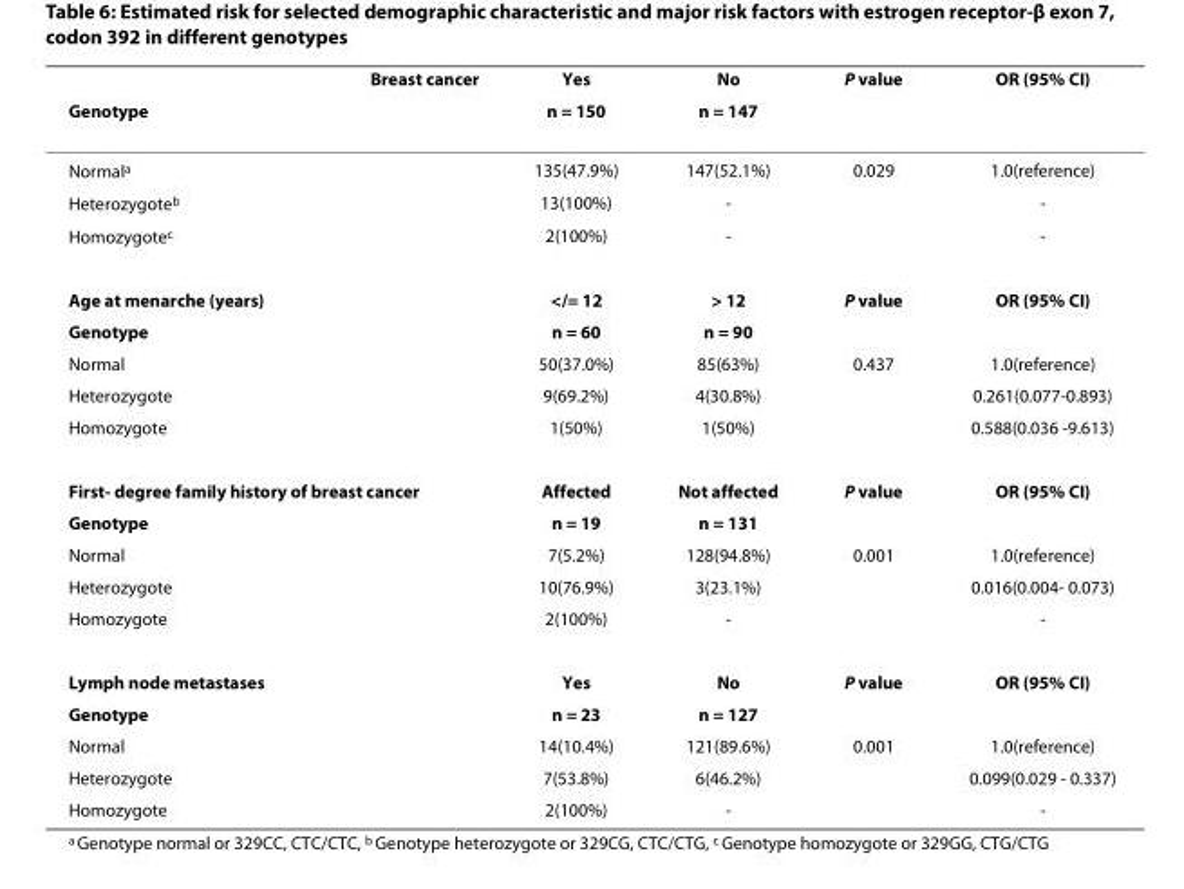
<table><thead><tr><td rowspan="2">Breast cancer Genotype</td><td rowspan="2">Yes n = 150</td><td rowspan="2">No n = 147</td><td rowspan="2">P value</td><td rowspan="2">OR (95% CI)</td></tr><tr></tr></thead><tbody><tr><td>Normal<sup>a</sup></td><td>135(47.9%)</td><td>147(52.1%)</td><td>0.029</td><td>1.0(reference)</td></tr><tr><td>Heterozygote<sup>b</sup></td><td>13(100%)</td><td>-</td><td></td><td>-</td></tr><tr><td>Homozygote<sup>c</sup></td><td>2(100%)</td><td>-</td><td></td><td>-</td></tr><tr><td>Age at menarche (years)</td><td>&lt;/= 12</td><td>&gt; 12</td><td>P value</td><td>OR (95% CI)</td></tr><tr><td>Genotype</td><td>n = 60</td><td>n = 90</td><td></td><td></td></tr><tr><td>Normal</td><td>50(37.0%)</td><td>85(63%)</td><td>0.437</td><td>1.0(reference)</td></tr><tr><td>Heterozygote</td><td>9(69.2%)</td><td>4(30.8%)</td><td></td><td>0.261(0.077-0.893)</td></tr><tr><td>Homozygote</td><td>1(50%)</td><td>1(50%)</td><td></td><td>0.588(0.036 -9.613)</td></tr><tr><td>First- degree family history of breast cancer</td><td>Affected</td><td>Not affected</td><td>P value</td><td>OR (95% CI)</td></tr><tr><td>Genotype</td><td>n = 19</td><td>n = 131</td><td></td><td></td></tr><tr><td>Normal</td><td>7(5.2%)</td><td>128(94.8%)</td><td>0.001</td><td>1.0(reference)</td></tr><tr><td>Heterozygote</td><td>10(76.9%)</td><td>3(23.1%)</td><td></td><td>0.016(0.004- 0.073)</td></tr><tr><td>Homozygote</td><td>2(100%)</td><td>-</td><td></td><td>-</td></tr><tr><td>Lymph node metastases</td><td>Yes</td><td>No</td><td>P value</td><td>OR (95% CI)</td></tr><tr><td>Genotype</td><td>n = 23</td><td>n = 127</td><td></td><td></td></tr><tr><td>Normal</td><td>14(10.4%)</td><td>121(89.6%)</td><td>0.001</td><td>1.0(reference)</td></tr><tr><td>Heterozygote</td><td>7(53.8%)</td><td>6(46.2%)</td><td></td><td>0.099(0.029 - 0.337)</td></tr><tr><td>Homozygote</td><td>2(100%)</td><td>-</td><td></td><td>-</td></tr></tbody></table>